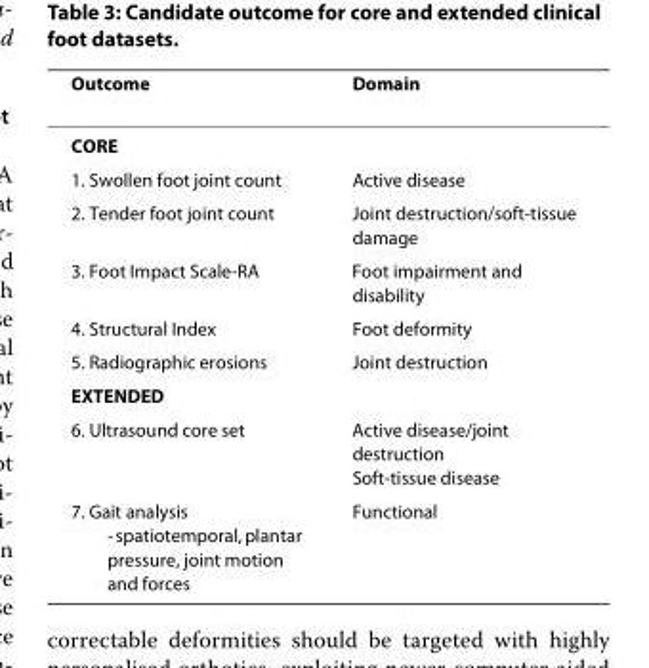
<table><thead><tr><td>Outcome</td><td>Domain</td></tr></thead><tbody><tr><td colspan="2">CORE</td></tr><tr><td>1. Swollen foot joint count</td><td>Active disease</td></tr><tr><td>2. Tender foot joint count</td><td>Joint destruction/soft-tissue damage</td></tr><tr><td>3. Foot Impact Scale-RA</td><td>Foot impairment and disability</td></tr><tr><td>4. Structural Index</td><td>Foot deformity</td></tr><tr><td>5. Radiographic erosions</td><td>Joint destruction</td></tr><tr><td colspan="2">EXTENDED</td></tr><tr><td>6. Ultrasound core set</td><td>Active disease/joint destruction Soft-tissue disease</td></tr><tr><td>7. Gait analysis - spatiotemporal, plantar pressure, joint motion and forces</td><td>Functional</td></tr></tbody></table>